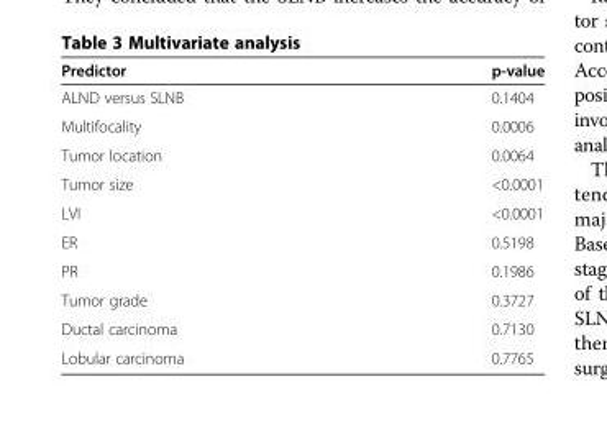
<table><thead><tr><td>Predictor</td><td>p-value</td></tr></thead><tbody><tr><td>ALND versus SLNB</td><td>0.1404</td></tr><tr><td>Multifocality</td><td>0.0006</td></tr><tr><td>Tumor location</td><td>0.0064</td></tr><tr><td>Tumor size</td><td>&lt;0.0001</td></tr><tr><td>LVI</td><td>&lt;0.0001</td></tr><tr><td>ER</td><td>0.5198</td></tr><tr><td>PR</td><td>0.1986</td></tr><tr><td>Tumor grade</td><td>0.3727</td></tr><tr><td>Ductal carcinoma</td><td>0.7130</td></tr><tr><td>Lobular carcinoma</td><td>0.7765</td></tr></tbody></table>